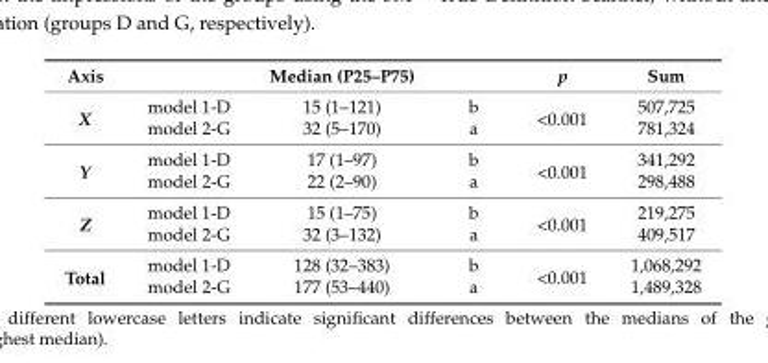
<table><thead><tr><td>Axis</td><td></td><td>Median (P25–P75)</td><td></td><td>p</td><td>Sum</td></tr></thead><tbody><tr><td rowspan="2">X</td><td>model 1-D</td><td>15 (1–121)</td><td>b</td><td rowspan="2">&lt;0.001</td><td>507,725</td></tr><tr><td>model 2-G</td><td>32 (5–170)</td><td>a</td><td>781,324</td></tr><tr><td rowspan="2">Y</td><td>model 1-D</td><td>17 (1–97)</td><td>b</td><td rowspan="2">&lt;0.001</td><td>341,292</td></tr><tr><td>model 2-G</td><td>22 (2–90)</td><td>a</td><td>298,488</td></tr><tr><td rowspan="2">Z</td><td>model 1-D</td><td>15 (1–75)</td><td>b</td><td rowspan="2">&lt;0.001</td><td>219,275</td></tr><tr><td>model 2-G</td><td>32 (3–132)</td><td>a</td><td>409,517</td></tr><tr><td rowspan="2">Total</td><td>model 1-D</td><td>128 (32–383)</td><td>b</td><td rowspan="2">&lt;0.001</td><td>1,068,292</td></tr><tr><td>model 2-G</td><td>177 (53–440)</td><td>a</td><td>1,489,328</td></tr></tbody></table>